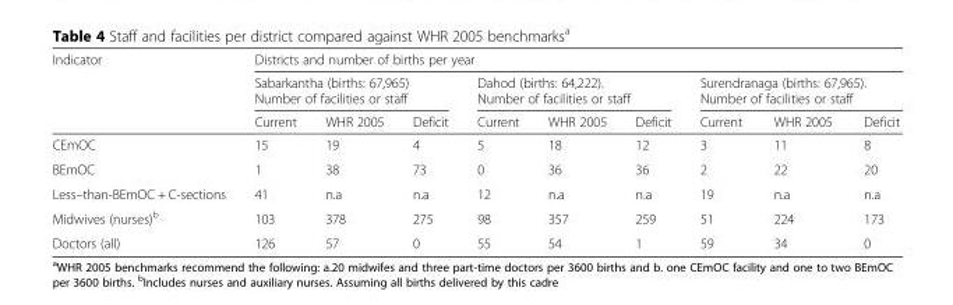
<table><thead><tr><td rowspan="4">Indicator</td><td colspan="9">Districts and number of births per year</td></tr><tr><td rowspan="2" colspan="3">Sabarkantha (births: 67,965) Number of facilities or staff</td><td rowspan="2" colspan="3">Dahod (births: 64,222). Number of facilities or staff</td><td rowspan="2" colspan="3">Surendranaga (births: 67,965). Number of facilities or staff</td></tr><tr></tr><tr><td>Current</td><td>WHR 2005</td><td>Deficit</td><td>Current</td><td>WHR 2005</td><td>Deficit</td><td>Current</td><td>WHR 2005</td><td>Deficit</td></tr></thead><tbody><tr><td>CEmOC</td><td>15</td><td>19</td><td>4</td><td>5</td><td>18</td><td>12</td><td>3</td><td>11</td><td>8</td></tr><tr><td>BEmOC</td><td>1</td><td>38</td><td>73</td><td>0</td><td>36</td><td>36</td><td>2</td><td>22</td><td>20</td></tr><tr><td>Less–than-BEmOC + C-sections</td><td>41</td><td>n.a</td><td>n.a</td><td>12</td><td>n.a</td><td>n.a</td><td>19</td><td>n.a</td><td>n.a</td></tr><tr><td>Midwives (nurses)<sup>b</sup></td><td>103</td><td>378</td><td>275</td><td>98</td><td>357</td><td>259</td><td>51</td><td>224</td><td>173</td></tr><tr><td>Doctors (all)</td><td>126</td><td>57</td><td>0</td><td>55</td><td>54</td><td>1</td><td>59</td><td>34</td><td>0</td></tr></tbody></table>